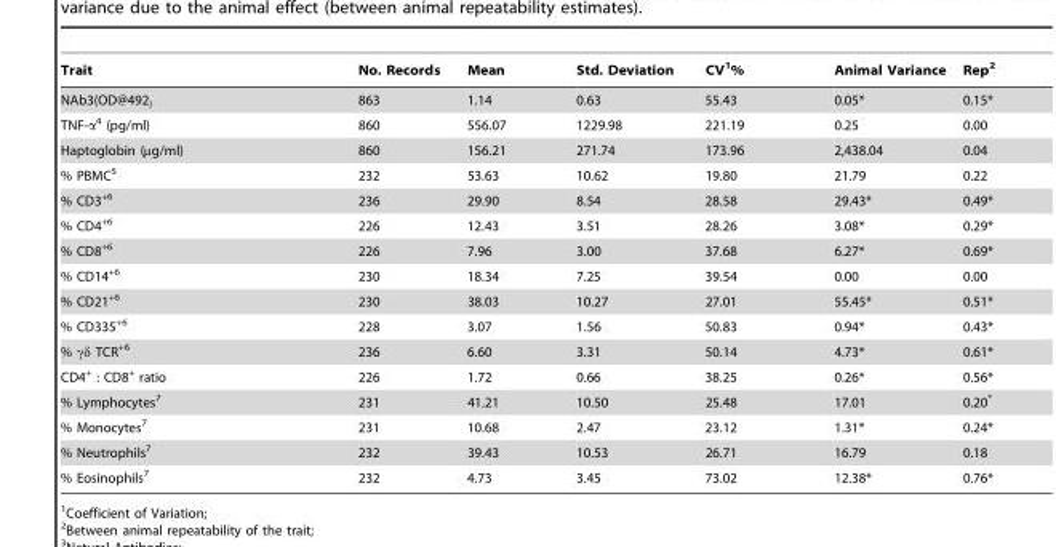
<table><thead><tr><td>Trait</td><td>No. Records</td><td>Mean</td><td>Std. Deviation</td><td>CV<sup>1</sup>%</td><td>Animal Variance</td><td>Rep<sup>2</sup></td></tr></thead><tbody><tr><td>NAb3(OD@492<sub>)</sub></td><td>863</td><td>1.14</td><td>0.63</td><td>55.43</td><td>0.05*</td><td>0.15*</td></tr><tr><td>TNF-α<sup>4</sup> (pg/ml)</td><td>860</td><td>556.07</td><td>1229.98</td><td>221.19</td><td>0.25</td><td>0.00</td></tr><tr><td>Haptoglobin (µg/ml)</td><td>860</td><td>156.21</td><td>271.74</td><td>173.96</td><td>2,438.04</td><td>0.04</td></tr><tr><td>% PBMC<sup>5</sup></td><td>232</td><td>53.63</td><td>10.62</td><td>19.80</td><td>21.79</td><td>0.22</td></tr><tr><td>% CD3<sup>+6</sup></td><td>236</td><td>29.90</td><td>8.54</td><td>28.58</td><td>29.43*</td><td>0.49*</td></tr><tr><td>% CD4<sup>+6</sup></td><td>226</td><td>12.43</td><td>3.51</td><td>28.26</td><td>3.08*</td><td>0.29*</td></tr><tr><td>% CD8<sup>+6</sup></td><td>226</td><td>7.96</td><td>3.00</td><td>37.68</td><td>6.27*</td><td>0.69*</td></tr><tr><td>% CD14<sup>+6</sup></td><td>230</td><td>18.34</td><td>7.25</td><td>39.54</td><td>0.00</td><td>0.00</td></tr><tr><td>% CD21<sup>+6</sup></td><td>230</td><td>38.03</td><td>10.27</td><td>27.01</td><td>55.45*</td><td>0.51*</td></tr><tr><td>% CD335<sup>+6</sup></td><td>228</td><td>3.07</td><td>1.56</td><td>50.83</td><td>0.94*</td><td>0.43*</td></tr><tr><td>% γδ TCR<sup>+6</sup></td><td>236</td><td>6.60</td><td>3.31</td><td>50.14</td><td>4.73*</td><td>0.61*</td></tr><tr><td>CD4<sup>+</sup> : CD8<sup>+</sup> ratio</td><td>226</td><td>1.72</td><td>0.66</td><td>38.25</td><td>0.26*</td><td>0.56*</td></tr><tr><td>% Lymphocytes<sup>7</sup></td><td>231</td><td>41.21</td><td>10.50</td><td>25.48</td><td>17.01</td><td>0.20*</td></tr><tr><td>% Monocytes<sup>7</sup></td><td>231</td><td>10.68</td><td>2.47</td><td>23.12</td><td>1.31*</td><td>0.24*</td></tr><tr><td>% Neutrophils<sup>7</sup></td><td>232</td><td>39.43</td><td>10.53</td><td>26.71</td><td>16.79</td><td>0.18</td></tr><tr><td>% Eosinophils<sup>7</sup></td><td>232</td><td>4.73</td><td>3.45</td><td>73.02</td><td>12.38*</td><td>0.76*</td></tr></tbody></table>